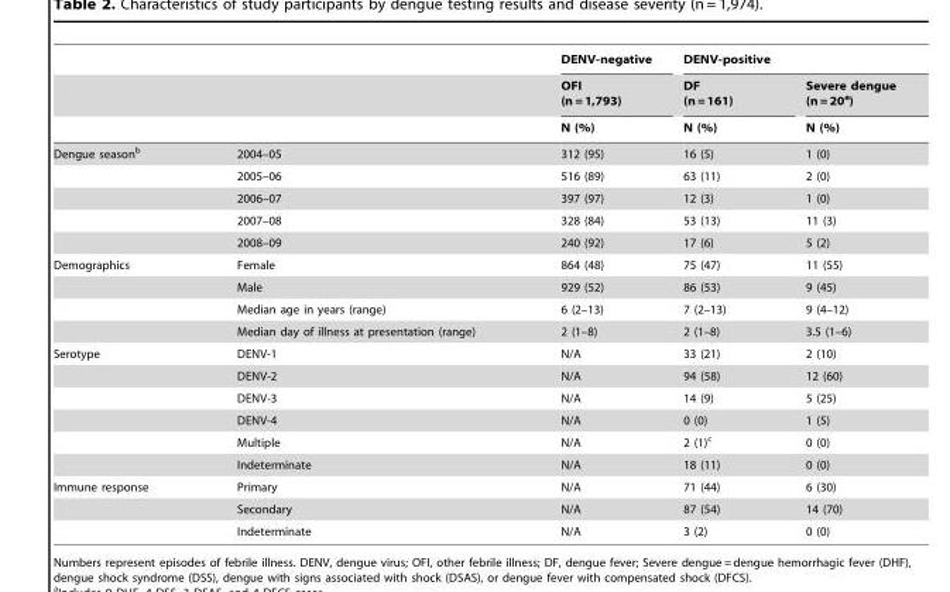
<table><thead><tr><td rowspan="3"></td><td rowspan="3"></td><td rowspan="3">DENV-negative OFI (n = 1,793) N (%)</td><td colspan="2">DENV-positive</td></tr><tr><td rowspan="2">DF (n = 161) N (%)</td><td rowspan="2">Severe dengue (n = 20<sup>a</sup>) N (%)</td></tr><tr></tr></thead><tbody><tr><td rowspan="5">Dengue season<sup>b</sup></td><td>2004–05</td><td>312 (95)</td><td>16 (5)</td><td>1 (0)</td></tr><tr><td>2005–06</td><td>516 (89)</td><td>63 (11)</td><td>2 (0)</td></tr><tr><td>2006–07</td><td>397 (97)</td><td>12 (3)</td><td>1 (0)</td></tr><tr><td>2007–08</td><td>328 (84)</td><td>53 (13)</td><td>11 (3)</td></tr><tr><td>2008–09</td><td>240 (92)</td><td>17 (6)</td><td>5 (2)</td></tr><tr><td rowspan="4">Demographics</td><td>Female</td><td>864 (48)</td><td>75 (47)</td><td>11 (55)</td></tr><tr><td>Male</td><td>929 (52)</td><td>86 (53)</td><td>9 (45)</td></tr><tr><td>Median age in years (range)</td><td>6 (2–13)</td><td>7 (2–13)</td><td>9 (4–12)</td></tr><tr><td>Median day of illness at presentation (range)</td><td>2 (1–8)</td><td>2 (1–8)</td><td>3.5 (1–6)</td></tr><tr><td rowspan="6">Serotype</td><td>DENV-1</td><td>N/A</td><td>33 (21)</td><td>2 (10)</td></tr><tr><td>DENV-2</td><td>N/A</td><td>94 (58)</td><td>12 (60)</td></tr><tr><td>DENV-3</td><td>N/A</td><td>14 (9)</td><td>5 (25)</td></tr><tr><td>DENV-4</td><td>N/A</td><td>0 (0)</td><td>1 (5)</td></tr><tr><td>Multiple</td><td>N/A</td><td>2 (1)<sup>c</sup></td><td>0 (0)</td></tr><tr><td>Indeterminate</td><td>N/A</td><td>18 (11)</td><td>0 (0)</td></tr><tr><td rowspan="3">Immune response</td><td>Primary</td><td>N/A</td><td>71 (44)</td><td>6 (30)</td></tr><tr><td>Secondary</td><td>N/A</td><td>87 (54)</td><td>14 (70)</td></tr><tr><td>Indeterminate</td><td>N/A</td><td>3 (2)</td><td>0 (0)</td></tr></tbody></table>